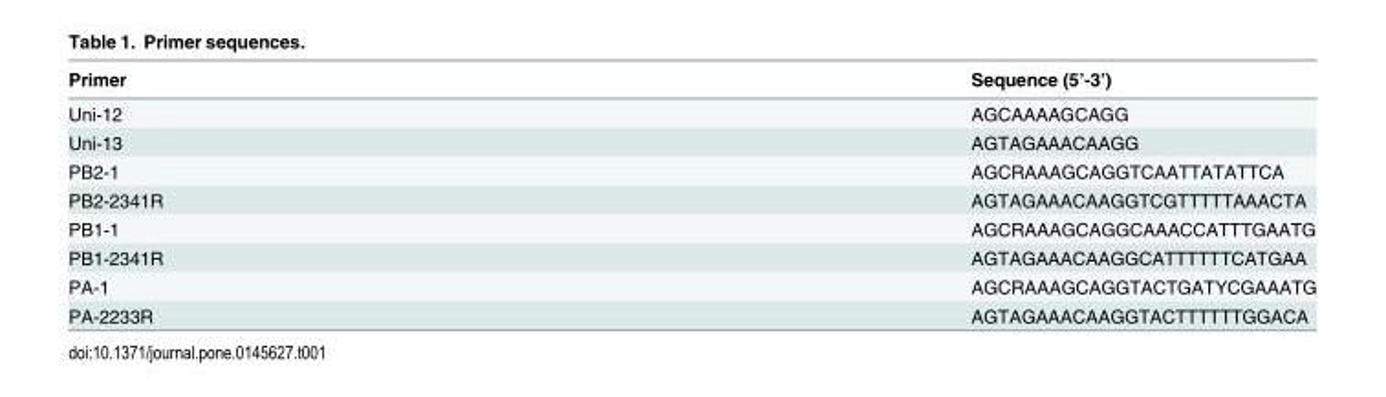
<table><thead><tr><td>Primer</td><td>Sequence (5’-3’)</td></tr></thead><tbody><tr><td>Uni-12</td><td>AGCAAAAGCAGG</td></tr><tr><td>Uni-13</td><td>AGTAGAAACAAGG</td></tr><tr><td>PB2-1</td><td>AGCRAAAGCAGGTCAATTATATTCA</td></tr><tr><td>PB2-2341R</td><td>AGTAGAAACAAGGTCGTTTTTAAACTA</td></tr><tr><td>PB1-1</td><td>AGCRAAAGCAGGCAAACCATTTGAATG</td></tr><tr><td>PB1-2341R</td><td>AGTAGAAACAAGGCATTTTTTCATGAA</td></tr><tr><td>PA-1</td><td>AGCRAAAGCAGGTACTGATYCGAAATG</td></tr><tr><td>PA-2233R</td><td>AGTAGAAACAAGGTACTTTTTTGGACA</td></tr></tbody></table>